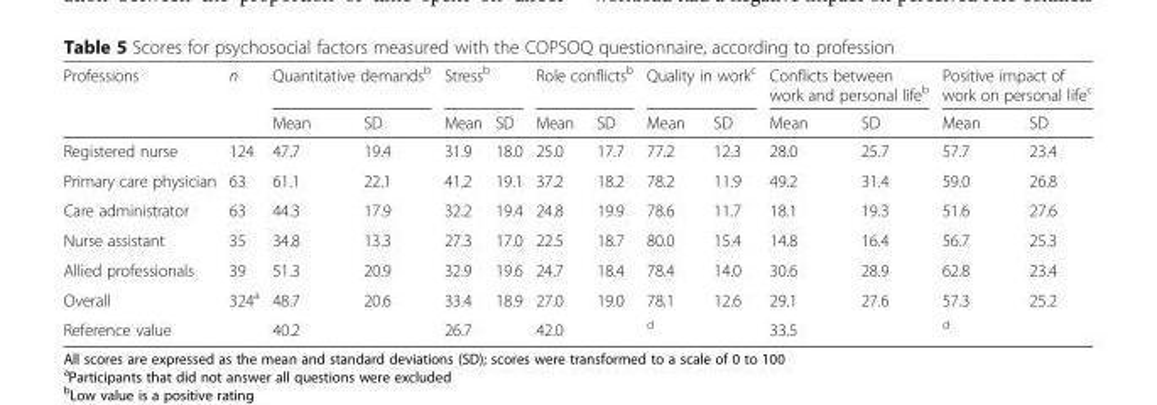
<table><thead><tr><td rowspan="2">Professions</td><td rowspan="2">n</td><td colspan="2">Quantitative demands<sup>b</sup></td><td colspan="2">Stress<sup>b</sup></td><td colspan="2">Role conflicts<sup>b</sup></td><td colspan="2">Quality in work<sup>c</sup></td><td colspan="2">Conflicts between work and personal life<sup>b</sup></td><td colspan="2">Positive impact of work on personal life<sup>c</sup></td></tr><tr><td>Mean</td><td>SD</td><td>Mean</td><td>SD</td><td>Mean</td><td>SD</td><td>Mean</td><td>SD</td><td>Mean</td><td>SD</td><td>Mean</td><td>SD</td></tr></thead><tbody><tr><td>Registered nurse</td><td>124</td><td>47.7</td><td>19.4</td><td>31.9</td><td>18.0</td><td>25.0</td><td>17.7</td><td>77.2</td><td>12.3</td><td>28.0</td><td>25.7</td><td>57.7</td><td>23.4</td></tr><tr><td>Primary care physician</td><td>63</td><td>61.1</td><td>22.1</td><td>41.2</td><td>19.1</td><td>37.2</td><td>18.2</td><td>78.2</td><td>11.9</td><td>49.2</td><td>31.4</td><td>59.0</td><td>26.8</td></tr><tr><td>Care administrator</td><td>63</td><td>44.3</td><td>17.9</td><td>32.2</td><td>19.4</td><td>24.8</td><td>19.9</td><td>78.6</td><td>11.7</td><td>18.1</td><td>19.3</td><td>51.6</td><td>27.6</td></tr><tr><td>Nurse assistant</td><td>35</td><td>34.8</td><td>13.3</td><td>27.3</td><td>17.0</td><td>22.5</td><td>18.7</td><td>80.0</td><td>15.4</td><td>14.8</td><td>16.4</td><td>56.7</td><td>25.3</td></tr><tr><td>Allied professionals</td><td>39</td><td>51.3</td><td>20.9</td><td>32.9</td><td>19.6</td><td>24.7</td><td>18.4</td><td>78.4</td><td>14.0</td><td>30.6</td><td>28.9</td><td>62.8</td><td>23.4</td></tr><tr><td>Overall</td><td>324<sup>a</sup></td><td>48.7</td><td>20.6</td><td>33.4</td><td>18.9</td><td>27.0</td><td>19.0</td><td>78.1</td><td>12.6</td><td>29.1</td><td>27.6</td><td>57.3</td><td>25.2</td></tr><tr><td>Reference value</td><td></td><td>40.2</td><td></td><td>26.7</td><td></td><td>42.0</td><td></td><td><sup>d</sup></td><td></td><td>33.5</td><td></td><td><sup>d</sup></td><td></td></tr></tbody></table>